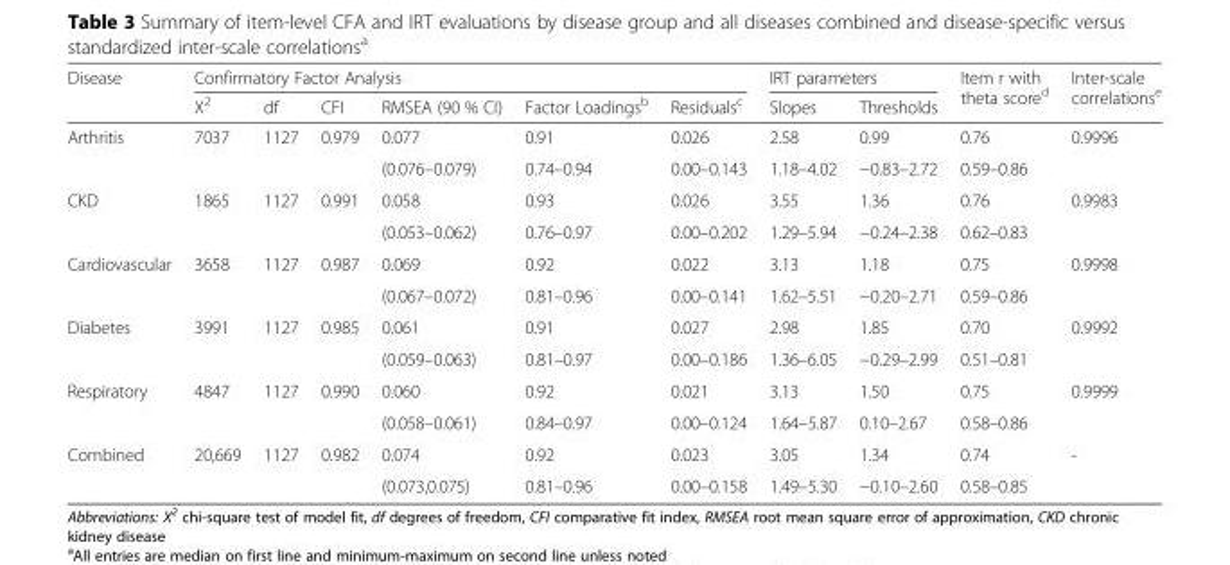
<table><thead><tr><td rowspan="2">Disease</td><td colspan="6">Confirmatory Factor Analysis</td><td colspan="2">IRT parameters</td><td rowspan="2">Item r with theta score<sup>d</sup></td><td rowspan="2">Inter-scale correlations<sup>e</sup></td></tr><tr><td>Χ<sup>2</sup></td><td>df</td><td>CFI</td><td>RMSEA (90 % CI)</td><td>Factor Loadings<sup>b</sup></td><td>Residuals<sup>c</sup></td><td>Slopes</td><td>Thresholds</td></tr></thead><tbody><tr><td rowspan="2">Arthritis</td><td rowspan="2">7037</td><td rowspan="2">1127</td><td rowspan="2">0.979</td><td>0.077</td><td>0.91</td><td>0.026</td><td>2.58</td><td>0.99</td><td>0.76</td><td rowspan="2">0.9996</td></tr><tr><td>(0.076–0.079)</td><td>0.74–0.94</td><td>0.00–0.143</td><td>1.18–4.02</td><td>−0.83–2.72</td><td>0.59–0.86</td></tr><tr><td rowspan="2">CKD</td><td rowspan="2">1865</td><td rowspan="2">1127</td><td rowspan="2">0.991</td><td>0.058</td><td>0.93</td><td>0.026</td><td>3.55</td><td>1.36</td><td>0.76</td><td rowspan="2">0.9983</td></tr><tr><td>(0.053–0.062)</td><td>0.76–0.97</td><td>0.00–0.202</td><td>1.29–5.94</td><td>−0.24–2.38</td><td>0.62–0.83</td></tr><tr><td rowspan="2">Cardiovascular</td><td rowspan="2">3658</td><td rowspan="2">1127</td><td rowspan="2">0.987</td><td>0.069</td><td>0.92</td><td>0.022</td><td>3.13</td><td>1.18</td><td>0.75</td><td rowspan="2">0.9998</td></tr><tr><td>(0.067–0.072)</td><td>0.81–0.96</td><td>0.00–0.141</td><td>1.62–5.51</td><td>−0.20–2.71</td><td>0.59–0.86</td></tr><tr><td rowspan="2">Diabetes</td><td rowspan="2">3991</td><td rowspan="2">1127</td><td rowspan="2">0.985</td><td>0.061</td><td>0.91</td><td>0.027</td><td>2.98</td><td>1.85</td><td>0.70</td><td rowspan="2">0.9992</td></tr><tr><td>(0.059–0.063)</td><td>0.81–0.97</td><td>0.00–0.186</td><td>1.36–6.05</td><td>−0.29–2.99</td><td>0.51–0.81</td></tr><tr><td rowspan="2">Respiratory</td><td rowspan="2">4847</td><td rowspan="2">1127</td><td rowspan="2">0.990</td><td>0.060</td><td>0.92</td><td>0.021</td><td>3.13</td><td>1.50</td><td>0.75</td><td rowspan="2">0.9999</td></tr><tr><td>(0.058–0.061)</td><td>0.84–0.97</td><td>0.00–0.124</td><td>1.64–5.87</td><td>0.10–2.67</td><td>0.58–0.86</td></tr><tr><td rowspan="2">Combined</td><td rowspan="2">20,669</td><td rowspan="2">1127</td><td rowspan="2">0.982</td><td>0.074</td><td>0.92</td><td>0.023</td><td>3.05</td><td>1.34</td><td>0.74</td><td rowspan="2">-</td></tr><tr><td>(0.073,0.075)</td><td>0.81–0.96</td><td>0.00–0.158</td><td>1.49–5.30</td><td>−0.10–2.60</td><td>0.58–0.85</td></tr></tbody></table>